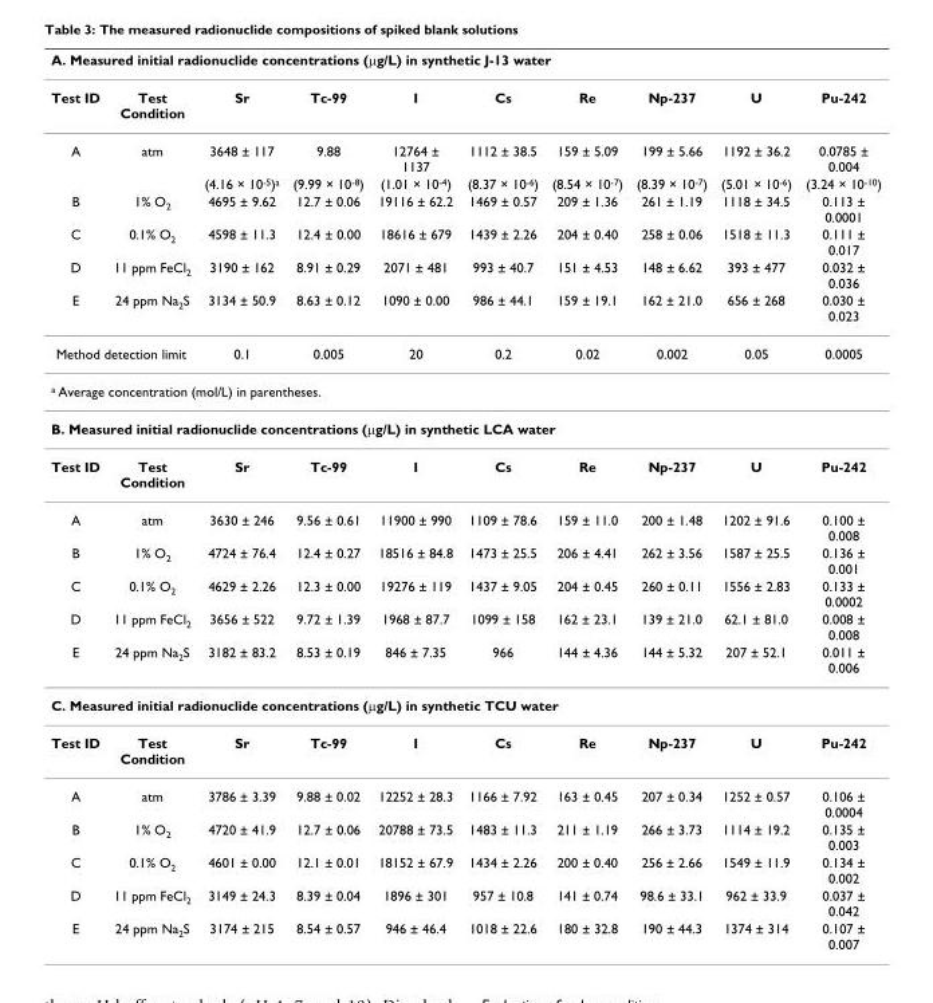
<table><thead><tr><td colspan="10">A. Measured initial radionuclide concentrations (μg/L) in synthetic J-13 water</td></tr><tr><td>Test ID</td><td>Test Condition</td><td>Sr</td><td>Tc-99</td><td>I</td><td>Cs</td><td>Re</td><td>Np-237</td><td>U</td><td>Pu-242</td></tr></thead><tbody><tr><td rowspan="2">A</td><td>atm</td><td>3648 ± 117</td><td>9.88</td><td>12764 ± 1137</td><td>1112 ± 38.5</td><td>159 ± 5.09</td><td>199 ± 5.66</td><td>1192 ± 36.2</td><td>0.0785 ± 0.004</td></tr><tr><td></td><td>(4.16 × 10<sup>-5</sup>)<sup>a</sup></td><td>(9.99 × 10<sup>-8</sup>)</td><td>(1.01 × 10<sup>-4</sup>)</td><td>(8.37 × 10<sup>-6</sup>)</td><td>(8.54 × 10<sup>-7</sup>)</td><td>(8.39 × 10<sup>-7</sup>)</td><td>(5.01 × 10<sup>-6</sup>)</td><td>(3.24 × 10<sup>-10</sup>)</td></tr><tr><td>B</td><td>1% O<sub>2</sub></td><td>4695 ± 9.62</td><td>12.7 ± 0.06</td><td>19116 ± 62.2</td><td>1469 ± 0.57</td><td>209 ± 1.36</td><td>261 ± 1.19</td><td>1118 ± 34.5</td><td>0.113 ± 0.0001</td></tr><tr><td>C</td><td>0.1% O<sub>2</sub></td><td>4598 ± 11.3</td><td>12.4 ± 0.00</td><td>18616 ± 679</td><td>1439 ± 2.26</td><td>204 ± 0.40</td><td>258 ± 0.06</td><td>1518 ± 11.3</td><td>0.111 ± 0.017</td></tr><tr><td>D</td><td>11 ppm FeCl<sub>2</sub></td><td>3190 ± 162</td><td>8.91 ± 0.29</td><td>2071 ± 481</td><td>993 ± 40.7</td><td>151 ± 4.53</td><td>148 ± 6.62</td><td>393 ± 477</td><td>0.032 ± 0.036</td></tr><tr><td>E</td><td>24 ppm Na<sub>2</sub>S</td><td>3134 ± 50.9</td><td>8.63 ± 0.12</td><td>1090 ± 0.00</td><td>986 ± 44.1</td><td>159 ± 19.1</td><td>162 ± 21.0</td><td>656 ± 268</td><td>0.030 ± 0.023</td></tr><tr><td colspan="2">Method detection limit</td><td>0.1</td><td>0.005</td><td>20</td><td>0.2</td><td>0.02</td><td>0.002</td><td>0.05</td><td>0.0005</td></tr><tr><td colspan="10"><sup>a</sup> Average concentration (mol/L) in parentheses.</td></tr><tr><td colspan="10">B. Measured initial radionuclide concentrations (μg/L) in synthetic LCA water</td></tr><tr><td>Test ID</td><td>Test Condition</td><td>Sr</td><td>Tc-99</td><td>I</td><td>Cs</td><td>Re</td><td>Np-237</td><td>U</td><td>Pu-242</td></tr><tr><td>A</td><td>atm</td><td>3630 ± 246</td><td>9.56 ± 0.61</td><td>11900 ± 990</td><td>1109 ± 78.6</td><td>159 ± 11.0</td><td>200 ± 1.48</td><td>1202 ± 91.6</td><td>0.100 ± 0.008</td></tr><tr><td>B</td><td>1% O<sub>2</sub></td><td>4724 ± 76.4</td><td>12.4 ± 0.27</td><td>18516 ± 84.8</td><td>1473 ± 25.5</td><td>206 ± 4.41</td><td>262 ± 3.56</td><td>1587 ± 25.5</td><td>0.136 ± 0.001</td></tr><tr><td>C</td><td>0.1% O<sub>2</sub></td><td>4629 ± 2.26</td><td>12.3 ± 0.00</td><td>19276 ± 119</td><td>1437 ± 9.05</td><td>204 ± 0.45</td><td>260 ± 0.11</td><td>1556 ± 2.83</td><td>0.133 ± 0.0002</td></tr><tr><td>D</td><td>11 ppm FeCl<sub>2</sub></td><td>3656 ± 522</td><td>9.72 ± 1.39</td><td>1968 ± 87.7</td><td>1099 ± 158</td><td>162 ± 23.1</td><td>139 ± 21.0</td><td>62.1 ± 81.0</td><td>0.008 ± 0.008</td></tr><tr><td>E</td><td>24 ppm Na<sub>2</sub>S</td><td>3182 ± 83.2</td><td>8.53 ± 0.19</td><td>846 ± 7.35</td><td>966</td><td>144 ± 4.36</td><td>144 ± 5.32</td><td>207 ± 52.1</td><td>0.011 ± 0.006</td></tr><tr><td colspan="10">C. Measured initial radionuclide concentrations (μg/L) in synthetic TCU water</td></tr><tr><td>Test ID</td><td>Test Condition</td><td>Sr</td><td>Tc-99</td><td>I</td><td>Cs</td><td>Re</td><td>Np-237</td><td>U</td><td>Pu-242</td></tr><tr><td>A</td><td>atm</td><td>3786 ± 3.39</td><td>9.88 ± 0.02</td><td>12252 ± 28.3</td><td>1166 ± 7.92</td><td>163 ± 0.45</td><td>207 ± 0.34</td><td>1252 ± 0.57</td><td>0.106 ± 0.0004</td></tr><tr><td>B</td><td>1% O<sub>2</sub></td><td>4720 ± 41.9</td><td>12.7 ± 0.06</td><td>20788 ± 73.5</td><td>1483 ± 11.3</td><td>211 ± 1.19</td><td>266 ± 3.73</td><td>1114 ± 19.2</td><td>0.135 ± 0.003</td></tr><tr><td>C</td><td>0.1% O<sub>2</sub></td><td>4601 ± 0.00</td><td>12.1 ± 0.01</td><td>18152 ± 67.9</td><td>1434 ± 2.26</td><td>200 ± 0.40</td><td>256 ± 2.66</td><td>1549 ± 11.9</td><td>0.134 ± 0.002</td></tr><tr><td>D</td><td>11 ppm FeCl<sub>2</sub></td><td>3149 ± 24.3</td><td>8.39 ± 0.04</td><td>1896 ± 301</td><td>957 ± 10.8</td><td>141 ± 0.74</td><td>98.6 ± 33.1</td><td>962 ± 33.9</td><td>0.037 ± 0.042</td></tr><tr><td>E</td><td>24 ppm Na<sub>2</sub>S</td><td>3174 ± 215</td><td>8.54 ± 0.57</td><td>946 ± 46.4</td><td>1018 ± 22.6</td><td>180 ± 32.8</td><td>190 ± 44.3</td><td>1374 ± 314</td><td>0.107 ± 0.007</td></tr></tbody></table>